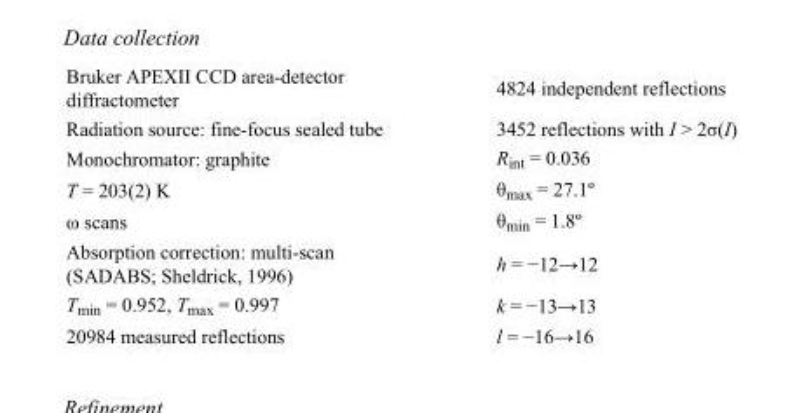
<table><tbody><tr><td>Bruker APEXII CCD area-detector diffractometer</td><td>4824 independent reflections</td></tr><tr><td>Radiation source: fine-focus sealed tube</td><td>3452 reflections with I &gt; 2σ(I)</td></tr><tr><td>Monochromator: graphite</td><td>R<sub>int</sub> = 0.036</td></tr><tr><td>T = 203(2) K</td><td>θ<sub>max</sub> = 27.1º</td></tr><tr><td>ω scans</td><td>θ<sub>min</sub> = 1.8º</td></tr><tr><td>Absorption correction: multi-scan (SADABS; Sheldrick, 1996)</td><td>h = −12→12</td></tr><tr><td>T<sub>min</sub> = 0.952, T<sub>max</sub> = 0.997</td><td>k = −13→13</td></tr><tr><td>20984 measured reflections</td><td>l = −16→16</td></tr></tbody></table>